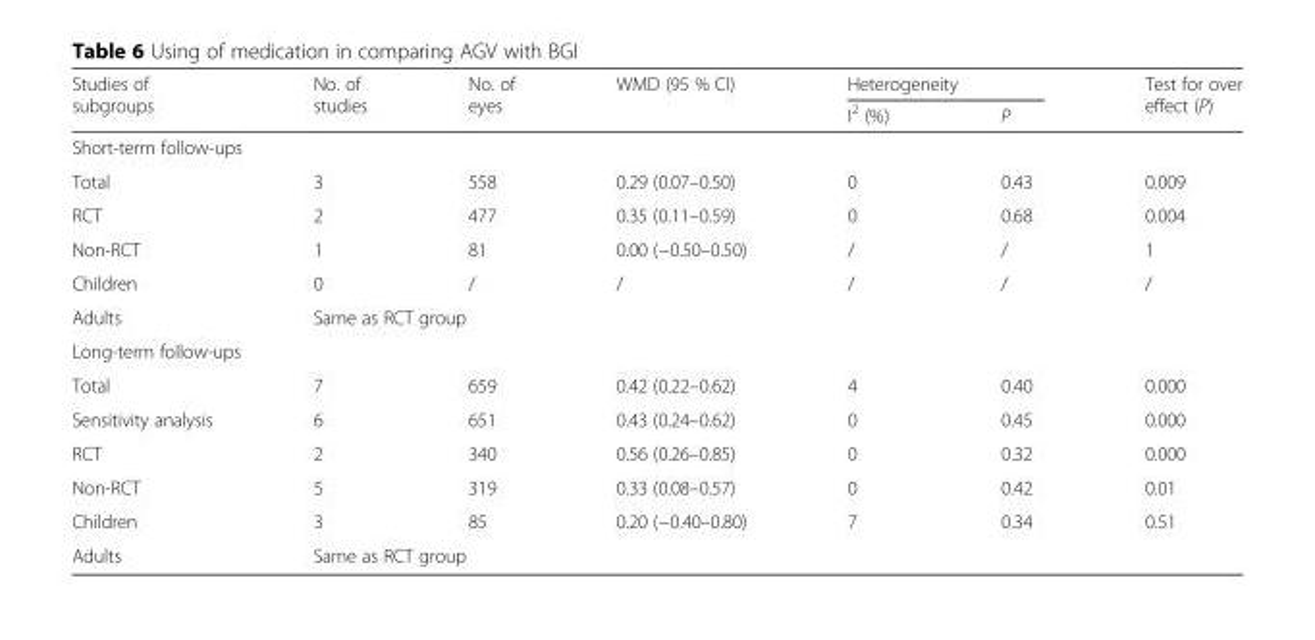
<table><thead><tr><td rowspan="2">Studies of subgroups</td><td rowspan="2">No. of studies</td><td rowspan="2">No. of eyes</td><td rowspan="2">WMD (95 % CI)</td><td colspan="2">Heterogeneity</td><td rowspan="2">Test for over effect (P)</td></tr><tr><td>I<sup>2</sup> (%)</td><td>P</td></tr></thead><tbody><tr><td colspan="7">Short-term follow-ups</td></tr><tr><td>Total</td><td>3</td><td>558</td><td>0.29 (0.07–0.50)</td><td>0</td><td>0.43</td><td>0.009</td></tr><tr><td>RCT</td><td>2</td><td>477</td><td>0.35 (0.11–0.59)</td><td>0</td><td>0.68</td><td>0.004</td></tr><tr><td>Non-RCT</td><td>1</td><td>81</td><td>0.00 (−0.50–0.50)</td><td>/</td><td>/</td><td>1</td></tr><tr><td>Children</td><td>0</td><td>/</td><td>/</td><td>/</td><td>/</td><td>/</td></tr><tr><td>Adults</td><td colspan="6">Same as RCT group</td></tr><tr><td colspan="7">Long-term follow-ups</td></tr><tr><td>Total</td><td>7</td><td>659</td><td>0.42 (0.22–0.62)</td><td>4</td><td>0.40</td><td>0.000</td></tr><tr><td>Sensitivity analysis</td><td>6</td><td>651</td><td>0.43 (0.24–0.62)</td><td>0</td><td>0.45</td><td>0.000</td></tr><tr><td>RCT</td><td>2</td><td>340</td><td>0.56 (0.26–0.85)</td><td>0</td><td>0.32</td><td>0.000</td></tr><tr><td>Non-RCT</td><td>5</td><td>319</td><td>0.33 (0.08–0.57)</td><td>0</td><td>0.42</td><td>0.01</td></tr><tr><td>Children</td><td>3</td><td>85</td><td>0.20 (−0.40–0.80)</td><td>7</td><td>0.34</td><td>0.51</td></tr><tr><td>Adults</td><td colspan="6">Same as RCT group</td></tr></tbody></table>